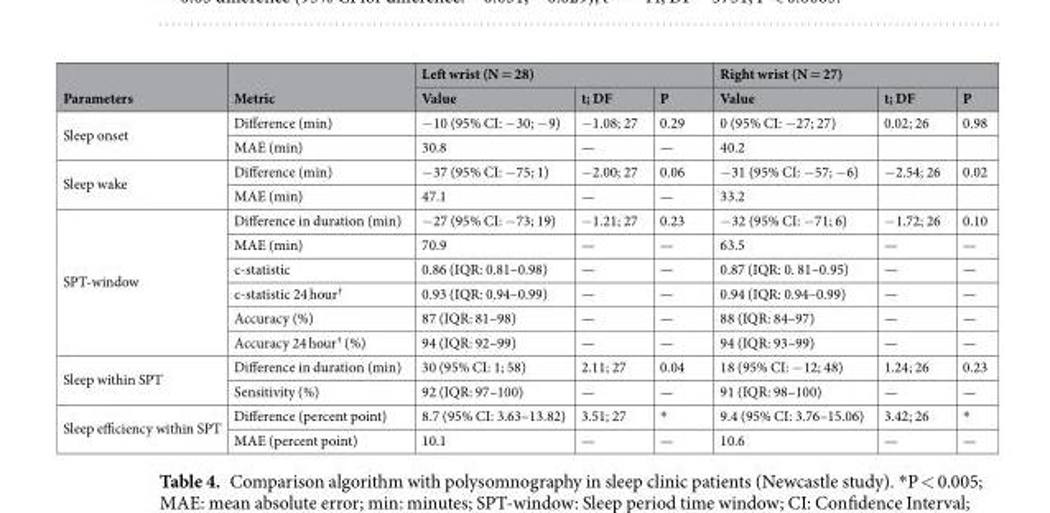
<table><thead><tr><td rowspan="2">Parameters</td><td rowspan="2">Metric</td><td colspan="3">Left wrist (N = 28)</td><td colspan="3">Right wrist (N = 27)</td></tr><tr><td>Value</td><td>t; DF</td><td>P</td><td>Value</td><td>t; DF</td><td>P</td></tr></thead><tbody><tr><td rowspan="2">Sleep onset</td><td>Difference (min)</td><td>−10 (95% CI: −30; −9)</td><td>−1.08; 27</td><td>0.29</td><td>0 (95% CI: −27; 27)</td><td>0.02; 26</td><td>0.98</td></tr><tr><td>MAE (min)</td><td>30.8</td><td>—</td><td>—</td><td>40.2</td><td></td><td></td></tr><tr><td rowspan="2">Sleep wake</td><td>Difference (min)</td><td>−37 (95% CI: −75; 1)</td><td>−2.00; 27</td><td>0.06</td><td>−31 (95% CI: −57; −6)</td><td>−2.54; 26</td><td>0.02</td></tr><tr><td>MAE (min)</td><td>47.1</td><td>—</td><td>—</td><td>33.2</td><td></td><td></td></tr><tr><td rowspan="6">SPT-window</td><td>Difference in duration (min)</td><td>−27 (95% CI: −73; 19)</td><td>−1.21; 27</td><td>0.23</td><td>−32 (95% CI: −71; 6)</td><td>−1.72; 26</td><td>0.10</td></tr><tr><td>MAE (min)</td><td>70.9</td><td>—</td><td>—</td><td>63.5</td><td>—</td><td>—</td></tr><tr><td>c-statistic</td><td>0.86 (IQR: 0.81–0.98)</td><td>—</td><td>—</td><td>0.87 (IQR: 0. 81–0.95)</td><td>—</td><td>—</td></tr><tr><td>c-statistic 24 hour<sup>†</sup></td><td>0.93 (IQR: 0.94–0.99)</td><td>—</td><td>—</td><td>0.94 (IQR: 0.94–0.99)</td><td>—</td><td>—</td></tr><tr><td>Accuracy (%)</td><td>87 (IQR: 81–98)</td><td>—</td><td>—</td><td>88 (IQR: 84–97)</td><td>—</td><td>—</td></tr><tr><td>Accuracy 24 hour<sup>†</sup> (%)</td><td>94 (IQR: 92–99)</td><td>—</td><td>—</td><td>94 (IQR: 93–99)</td><td>—</td><td>—</td></tr><tr><td rowspan="2">Sleep within SPT</td><td>Difference in duration (min)</td><td>30 (95% CI: 1; 58)</td><td>2.11; 27</td><td>0.04</td><td>18 (95% CI: −12; 48)</td><td>1.24; 26</td><td>0.23</td></tr><tr><td>Sensitivity (%)</td><td>92 (IQR: 97–100)</td><td>—</td><td>—</td><td>91 (IQR: 98–100)</td><td>—</td><td>—</td></tr><tr><td rowspan="2">Sleep efficiency within SPT</td><td>Difference (percent point)</td><td>8.7 (95% CI: 3.63–13.82)</td><td>3.51; 27</td><td>*</td><td>9.4 (95% CI: 3.76–15.06)</td><td>3.42; 26</td><td>*</td></tr><tr><td>MAE (percent point)</td><td>10.1</td><td>—</td><td>—</td><td>10.6</td><td>—</td><td>—</td></tr></tbody></table>